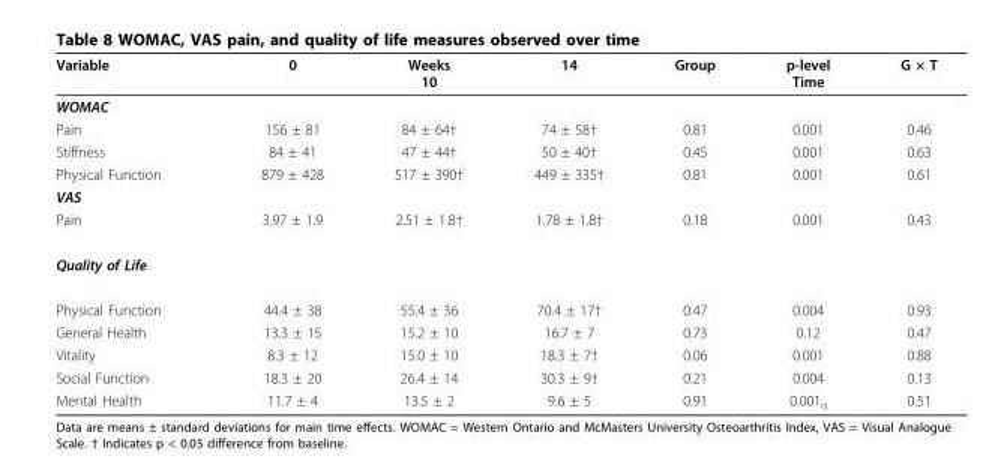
<table><thead><tr><td>Variable</td><td>0</td><td>Weeks 10</td><td>14</td><td>Group</td><td>p-level Time</td><td>G × T</td></tr></thead><tbody><tr><td colspan="7">WOMAC</td></tr><tr><td>Pain</td><td>156 ± 81</td><td>84 ± 64†</td><td>74 ± 58†</td><td>0.81</td><td>0.001</td><td>0.46</td></tr><tr><td>Stiffness</td><td>84 ± 41</td><td>47 ± 44†</td><td>50 ± 40†</td><td>0.45</td><td>0.001</td><td>0.63</td></tr><tr><td>Physical Function</td><td>879 ± 428</td><td>517 ± 390†</td><td>449 ± 335†</td><td>0.81</td><td>0.001</td><td>0.61</td></tr><tr><td colspan="7">VAS</td></tr><tr><td>Pain</td><td>3.97 ± 1.9</td><td>2.51 ± 1.8†</td><td>1.78 ± 1.8†</td><td>0.18</td><td>0.001</td><td>0.43</td></tr><tr><td colspan="7">Quality of Life</td></tr><tr><td>Physical Function</td><td>44.4 ± 38</td><td>55.4 ± 36</td><td>70.4 ± 17†</td><td>0.47</td><td>0.004</td><td>0.93</td></tr><tr><td>General Health</td><td>13.3 ± 15</td><td>15.2 ± 10</td><td>16.7 ± 7</td><td>0.73</td><td>0.12</td><td>0.47</td></tr><tr><td>Vitality</td><td>8.3 ± 12</td><td>15.0 ± 10</td><td>18.3 ± 7†</td><td>0.06</td><td>0.001</td><td>0.88</td></tr><tr><td>Social Function</td><td>18.3 ± 20</td><td>26.4 ± 14</td><td>30.3 ± 9†</td><td>0.21</td><td>0.004</td><td>0.13</td></tr><tr><td>Mental Health</td><td>11.7 ± 4</td><td>13.5 ± 2</td><td>9.6 ± 5</td><td>0.91</td><td>0.001<sub>q</sub></td><td>0.51</td></tr></tbody></table>